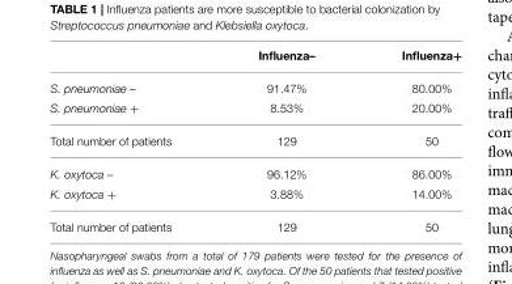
<table><thead><tr><td></td><td>Influenza–</td><td>Influenza+</td></tr></thead><tbody><tr><td>S. pneumoniae –</td><td>91.47%</td><td>80.00%</td></tr><tr><td>S. pneumoniae +</td><td>8.53%</td><td>20.00%</td></tr><tr><td>Total number of patients</td><td>129</td><td>50</td></tr><tr><td>K. oxytoca –</td><td>96.12%</td><td>86.00%</td></tr><tr><td>K. oxytoca +</td><td>3.88%</td><td>14.00%</td></tr><tr><td>Total number of patients</td><td>129</td><td>50</td></tr></tbody></table>